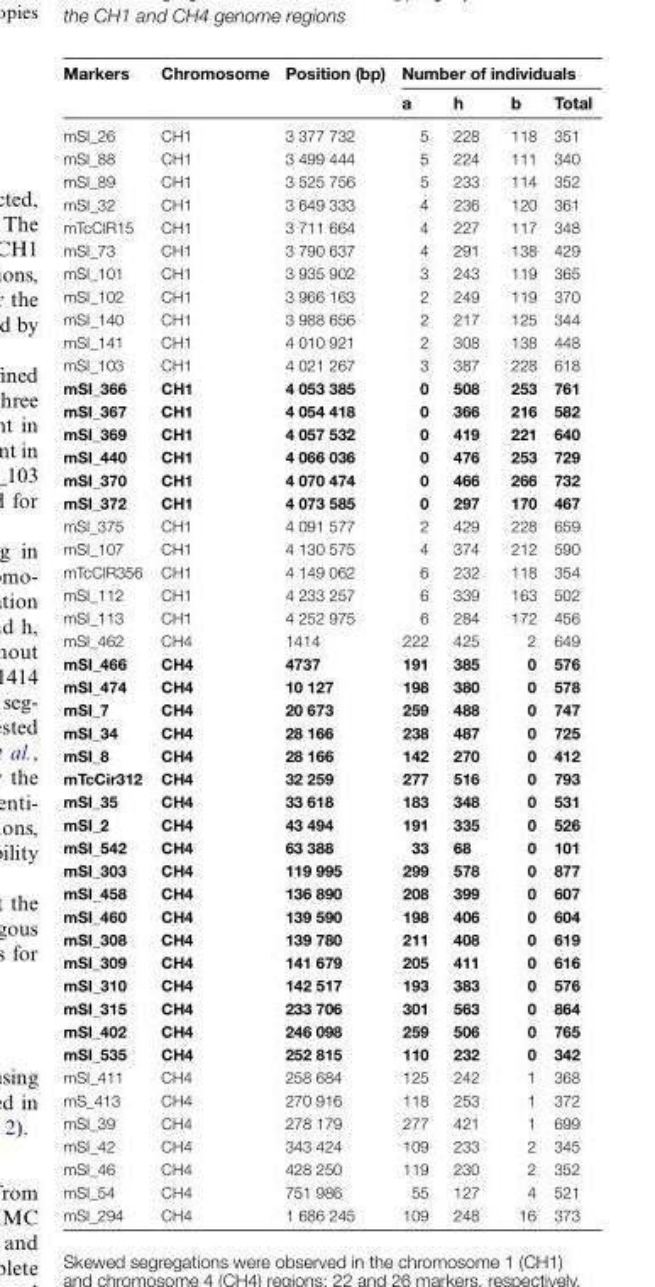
<table><thead><tr><td rowspan="2">Markers</td><td rowspan="2">Chromosome</td><td rowspan="2">Position (bp)</td><td colspan="4">Number of individuals</td></tr><tr><td>a</td><td>h</td><td>b</td><td>Total</td></tr></thead><tbody><tr><td>mSI_26</td><td>CH1</td><td>3 377 732</td><td>5</td><td>228</td><td>118</td><td>351</td></tr><tr><td>mSI_88</td><td>CH1</td><td>3 499 444</td><td>5</td><td>224</td><td>111</td><td>340</td></tr><tr><td>mSI_89</td><td>CH1</td><td>3 525 756</td><td>5</td><td>233</td><td>114</td><td>352</td></tr><tr><td>mSI_32</td><td>CH1</td><td>3 649 333</td><td>4</td><td>236</td><td>120</td><td>361</td></tr><tr><td>mTcCIR15</td><td>CH1</td><td>3 711 664</td><td>4</td><td>227</td><td>117</td><td>348</td></tr><tr><td>mSI_73</td><td>CH1</td><td>3 790 637</td><td>4</td><td>291</td><td>138</td><td>429</td></tr><tr><td>mSI_101</td><td>CH1</td><td>3 935 902</td><td>3</td><td>243</td><td>119</td><td>365</td></tr><tr><td>mSI_102</td><td>CH1</td><td>3 966 163</td><td>2</td><td>249</td><td>119</td><td>370</td></tr><tr><td>mSI_140</td><td>CH1</td><td>3 988 656</td><td>2</td><td>217</td><td>125</td><td>344</td></tr><tr><td>mSI_141</td><td>CH1</td><td>4 010 921</td><td>2</td><td>308</td><td>138</td><td>448</td></tr><tr><td>mSI_103</td><td>CH1</td><td>4 021 267</td><td>3</td><td>387</td><td>228</td><td>618</td></tr><tr><td>mSI_366</td><td>CH1</td><td>4 053 385</td><td>0</td><td>508</td><td>253</td><td>761</td></tr><tr><td>mSI_367</td><td>CH1</td><td>4 054 418</td><td>0</td><td>366</td><td>216</td><td>582</td></tr><tr><td>mSI_369</td><td>CH1</td><td>4 057 532</td><td>0</td><td>419</td><td>221</td><td>640</td></tr><tr><td>mSI_440</td><td>CH1</td><td>4 066 036</td><td>0</td><td>476</td><td>253</td><td>729</td></tr><tr><td>mSI_370</td><td>CH1</td><td>4 070 474</td><td>0</td><td>466</td><td>266</td><td>732</td></tr><tr><td>mSI_372</td><td>CH1</td><td>4 073 585</td><td>0</td><td>297</td><td>170</td><td>467</td></tr><tr><td>mSI_375</td><td>CH1</td><td>4 091 577</td><td>2</td><td>429</td><td>228</td><td>659</td></tr><tr><td>mSI_107</td><td>CH1</td><td>4 130 575</td><td>4</td><td>374</td><td>212</td><td>590</td></tr><tr><td>mTcCIR356</td><td>CH1</td><td>4 149 062</td><td>6</td><td>232</td><td>118</td><td>354</td></tr><tr><td>mSI_112</td><td>CH1</td><td>4 233 257</td><td>6</td><td>339</td><td>163</td><td>502</td></tr><tr><td>mSI_113</td><td>CH1</td><td>4 252 975</td><td>6</td><td>284</td><td>172</td><td>456</td></tr><tr><td>mSI_462</td><td>CH4</td><td>1414</td><td>222</td><td>425</td><td>2</td><td>649</td></tr><tr><td>mSI_466</td><td>CH4</td><td>4737</td><td>191</td><td>385</td><td>0</td><td>576</td></tr><tr><td>mSI_474</td><td>CH4</td><td>10 127</td><td>198</td><td>380</td><td>0</td><td>578</td></tr><tr><td>mSI_7</td><td>CH4</td><td>20 673</td><td>259</td><td>488</td><td>0</td><td>747</td></tr><tr><td>mSI_34</td><td>CH4</td><td>28 166</td><td>238</td><td>487</td><td>0</td><td>725</td></tr><tr><td>mSI_8</td><td>CH4</td><td>28 166</td><td>142</td><td>270</td><td>0</td><td>412</td></tr><tr><td>mTcCir312</td><td>CH4</td><td>32 259</td><td>277</td><td>516</td><td>0</td><td>793</td></tr><tr><td>mSI_35</td><td>CH4</td><td>33 618</td><td>183</td><td>348</td><td>0</td><td>531</td></tr><tr><td>mSI_2</td><td>CH4</td><td>43 494</td><td>191</td><td>335</td><td>0</td><td>526</td></tr><tr><td>mSI_542</td><td>CH4</td><td>63 388</td><td>33</td><td>68</td><td>0</td><td>101</td></tr><tr><td>mSI_303</td><td>CH4</td><td>119 995</td><td>299</td><td>578</td><td>0</td><td>877</td></tr><tr><td>mSI_458</td><td>CH4</td><td>136 890</td><td>208</td><td>399</td><td>0</td><td>607</td></tr><tr><td>mSI_460</td><td>CH4</td><td>139 590</td><td>198</td><td>406</td><td>0</td><td>604</td></tr><tr><td>mSI_308</td><td>CH4</td><td>139 780</td><td>211</td><td>408</td><td>0</td><td>619</td></tr><tr><td>mSI_309</td><td>CH4</td><td>141 679</td><td>205</td><td>411</td><td>0</td><td>616</td></tr><tr><td>mSI_310</td><td>CH4</td><td>142 517</td><td>193</td><td>383</td><td>0</td><td>576</td></tr><tr><td>mSI_315</td><td>CH4</td><td>233 706</td><td>301</td><td>563</td><td>0</td><td>864</td></tr><tr><td>mSI_402</td><td>CH4</td><td>246 098</td><td>259</td><td>506</td><td>0</td><td>765</td></tr><tr><td>mSI_535</td><td>CH4</td><td>252 815</td><td>110</td><td>232</td><td>0</td><td>342</td></tr><tr><td>mSI_411</td><td>CH4</td><td>258 684</td><td>125</td><td>242</td><td>1</td><td>368</td></tr><tr><td>mS_413</td><td>CH4</td><td>270 916</td><td>118</td><td>253</td><td>1</td><td>372</td></tr><tr><td>mSI_39</td><td>CH4</td><td>278 179</td><td>277</td><td>421</td><td>1</td><td>699</td></tr><tr><td>mSI_42</td><td>CH4</td><td>343 424</td><td>109</td><td>233</td><td>2</td><td>345</td></tr><tr><td>mSI_46</td><td>CH4</td><td>428 250</td><td>119</td><td>230</td><td>2</td><td>352</td></tr><tr><td>mSI_54</td><td>CH4</td><td>751 986</td><td>55</td><td>127</td><td>4</td><td>521</td></tr><tr><td>mSI_294</td><td>CH4</td><td>1 686 245</td><td>109</td><td>248</td><td>16</td><td>373</td></tr></tbody></table>